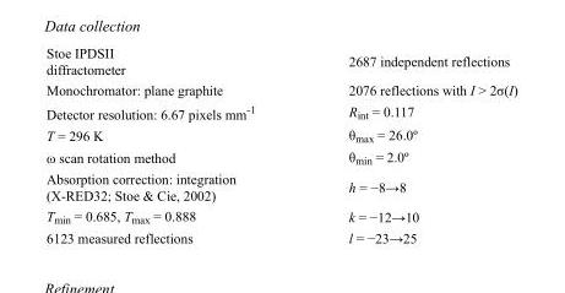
<table><tbody><tr><td>Stoe IPDSII diffractometer</td><td>2687 independent reflections</td></tr><tr><td>Monochromator: plane graphite</td><td>2076 reflections with I &gt; 2σ(I)</td></tr><tr><td>Detector resolution: 6.67 pixels mm<sup>-1</sup></td><td>R<sub>int</sub> = 0.117</td></tr><tr><td>T = 296 K</td><td>θ<sub>max</sub> = 26.0º</td></tr><tr><td>ω scan rotation method</td><td>θ<sub>min</sub> = 2.0º</td></tr><tr><td>Absorption correction: integration (X-RED32; Stoe &amp; Cie, 2002)</td><td>h = −8→8</td></tr><tr><td>T<sub>min</sub> = 0.685, T<sub>max</sub> = 0.888</td><td>k = −12→10</td></tr><tr><td>6123 measured reflections</td><td>l = −23→25</td></tr></tbody></table>